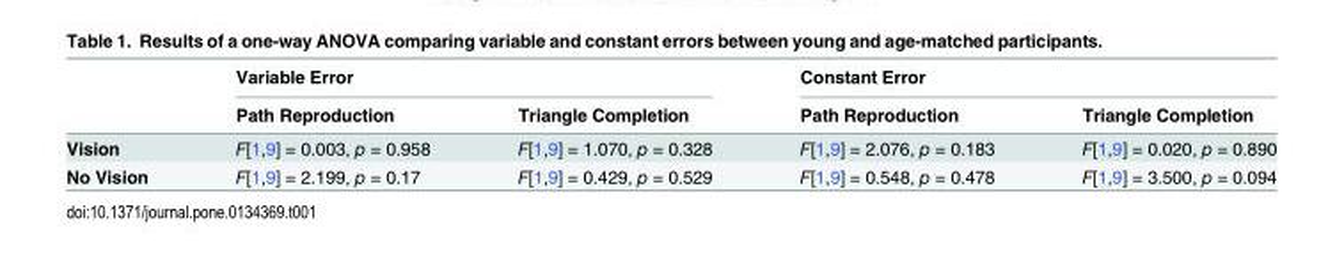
<table><thead><tr><td rowspan="2"></td><td colspan="2">Variable Error</td><td colspan="2">Constant Error</td></tr><tr><td>Path Reproduction</td><td>Triangle Completion</td><td>Path Reproduction</td><td>Triangle Completion</td></tr></thead><tbody><tr><td>Vision</td><td>F[1,9] = 0.003, p = 0.958</td><td>F[1,9] = 1.070, p = 0.328</td><td>F[1,9] = 2.076, p = 0.183</td><td>F[1,9] = 0.020, p = 0.890</td></tr><tr><td>No Vision</td><td>F[1,9] = 2.199, p = 0.17</td><td>F[1,9] = 0.429, p = 0.529</td><td>F[1,9] = 0.548, p = 0.478</td><td>F[1,9] = 3.500, p = 0.094</td></tr></tbody></table>